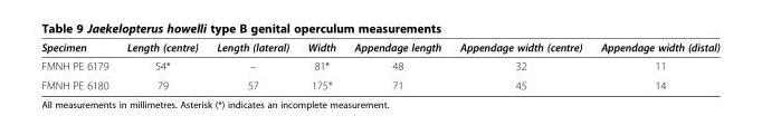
<table><thead><tr><td>Specimen</td><td>Length (centre)</td><td>Length (lateral)</td><td>Width</td><td>Appendage length</td><td>Appendage width (centre)</td><td>Appendage width (distal)</td></tr></thead><tbody><tr><td>FMNH PE 6179</td><td>54*</td><td>–</td><td>81*</td><td>48</td><td>32</td><td>11</td></tr><tr><td>FMNH PE 6180</td><td>79</td><td>57</td><td>175*</td><td>71</td><td>45</td><td>14</td></tr></tbody></table>